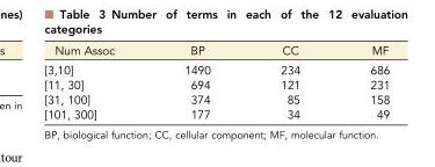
<table><thead><tr><td>Num Assoc</td><td>BP</td><td>CC</td><td>MF</td></tr></thead><tbody><tr><td>[3,10]</td><td>1490</td><td>234</td><td>686</td></tr><tr><td>[11, 30]</td><td>694</td><td>121</td><td>231</td></tr><tr><td>[31, 100]</td><td>374</td><td>85</td><td>158</td></tr><tr><td>[101, 300]</td><td>177</td><td>34</td><td>49</td></tr></tbody></table>